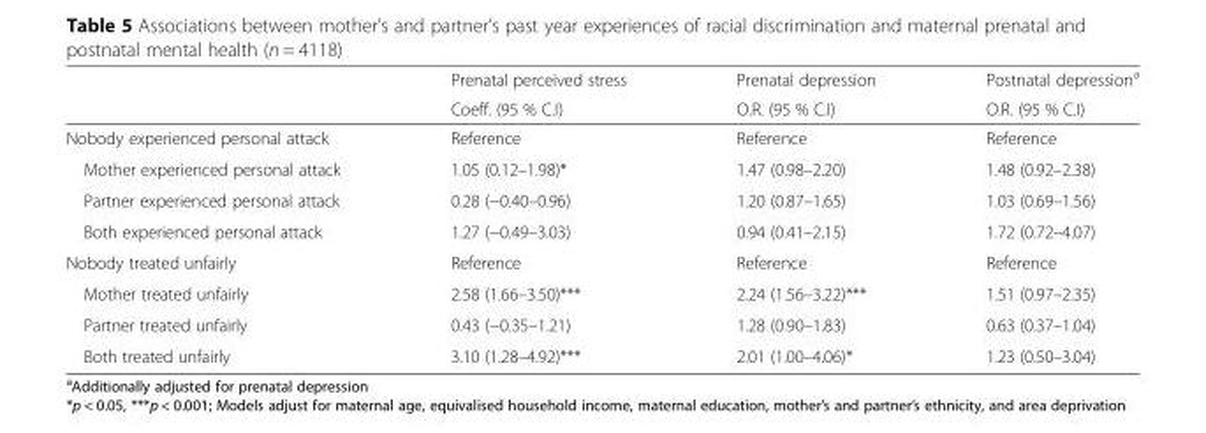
<table><thead><tr><td rowspan="2"></td><td rowspan="2">Prenatal perceived stress Coeff. (95 % C.I)</td><td rowspan="2">Prenatal depression O.R. (95 % C.I)</td><td rowspan="2">Postnatal depression<sup>a</sup> O.R. (95 % C.I)</td></tr><tr></tr></thead><tbody><tr><td>Nobody experienced personal attack</td><td>Reference</td><td>Reference</td><td>Reference</td></tr><tr><td>Mother experienced personal attack</td><td>1.05 (0.12–1.98)*</td><td>1.47 (0.98–2.20)</td><td>1.48 (0.92–2.38)</td></tr><tr><td>Partner experienced personal attack</td><td>0.28 (−0.40–0.96)</td><td>1.20 (0.87–1.65)</td><td>1.03 (0.69–1.56)</td></tr><tr><td>Both experienced personal attack</td><td>1.27 (−0.49–3.03)</td><td>0.94 (0.41–2.15)</td><td>1.72 (0.72–4.07)</td></tr><tr><td>Nobody treated unfairly</td><td>Reference</td><td>Reference</td><td>Reference</td></tr><tr><td>Mother treated unfairly</td><td>2.58 (1.66–3.50)***</td><td>2.24 (1.56–3.22)***</td><td>1.51 (0.97–2.35)</td></tr><tr><td>Partner treated unfairly</td><td>0.43 (−0.35–1.21)</td><td>1.28 (0.90–1.83)</td><td>0.63 (0.37–1.04)</td></tr><tr><td>Both treated unfairly</td><td>3.10 (1.28–4.92)***</td><td>2.01 (1.00–4.06)*</td><td>1.23 (0.50–3.04)</td></tr></tbody></table>